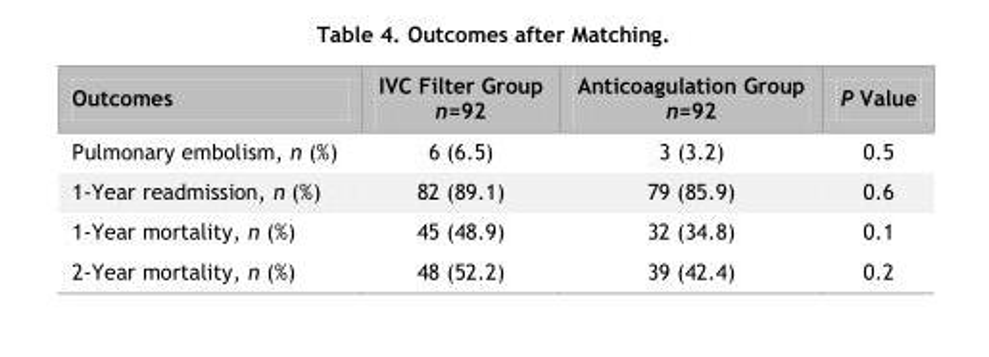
<table><thead><tr><td>Outcomes</td><td>IVC Filter Group n=92</td><td>Anticoagulation Group n=92</td><td>P Value</td></tr></thead><tbody><tr><td>Pulmonary embolism, n (%)</td><td>6 (6.5)</td><td>3 (3.2)</td><td>0.5</td></tr><tr><td>1-Year readmission, n (%)</td><td>82 (89.1)</td><td>79 (85.9)</td><td>0.6</td></tr><tr><td>1-Year mortality, n (%)</td><td>45 (48.9)</td><td>32 (34.8)</td><td>0.1</td></tr><tr><td>2-Year mortality, n (%)</td><td>48 (52.2)</td><td>39 (42.4)</td><td>0.2</td></tr></tbody></table>